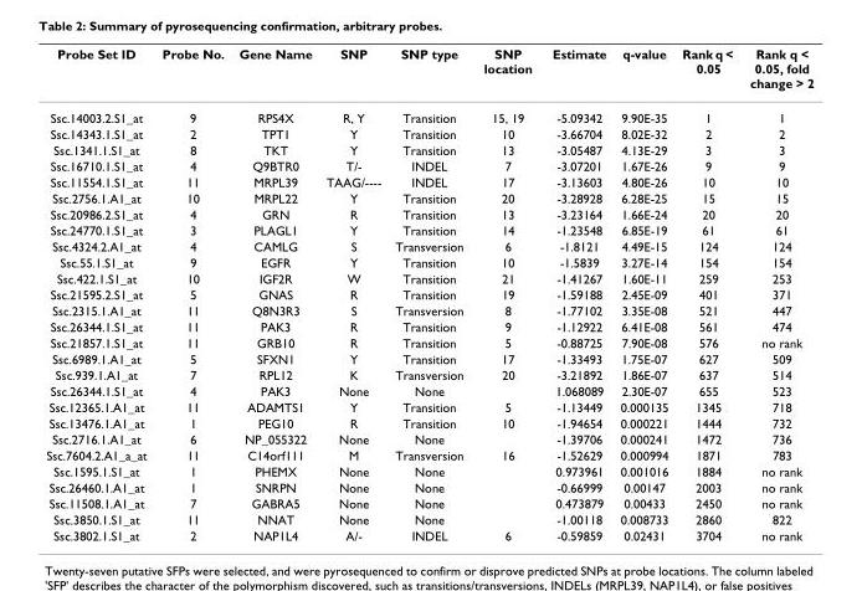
<table><thead><tr><td>Probe Set ID</td><td>Probe No.</td><td>Gene Name</td><td>SNP</td><td>SNP type</td><td>SNP location</td><td>Estimate</td><td>q-value</td><td>Rank q &lt; 0.05</td><td>Rank q &lt; 0.05, fold change &gt; 2</td></tr></thead><tbody><tr><td>Ssc.14003.2.S1_at</td><td>9</td><td>RPS4X</td><td>R, Y</td><td>Transition</td><td>15, 19</td><td>-5.09342</td><td>9.90E-35</td><td>1</td><td>1</td></tr><tr><td>Ssc.14343.1.S1_at</td><td>2</td><td>TPT1</td><td>Y</td><td>Transition</td><td>10</td><td>-3.66704</td><td>8.02E-32</td><td>2</td><td>2</td></tr><tr><td>Ssc.1341.1.S1_at</td><td>8</td><td>TKT</td><td>Y</td><td>Transition</td><td>13</td><td>-3.05487</td><td>4.13E-29</td><td>3</td><td>3</td></tr><tr><td>Ssc.16710.1.S1_at</td><td>4</td><td>Q9BTR0</td><td>T/-</td><td>INDEL</td><td>7</td><td>-3.07201</td><td>1.67E-26</td><td>9</td><td>9</td></tr><tr><td>Ssc.11554.1.S1_at</td><td>11</td><td>MRPL39</td><td>TAAG/----</td><td>INDEL</td><td>17</td><td>-3.13603</td><td>4.80E-26</td><td>10</td><td>10</td></tr><tr><td>Ssc.2756.1.A1_at</td><td>10</td><td>MRPL22</td><td>Y</td><td>Transition</td><td>20</td><td>-3.28928</td><td>6.28E-25</td><td>15</td><td>15</td></tr><tr><td>Ssc.20986.2.S1_at</td><td>4</td><td>GRN</td><td>R</td><td>Transition</td><td>13</td><td>-3.23164</td><td>1.66E-24</td><td>20</td><td>20</td></tr><tr><td>Ssc.24770.1.S1_at</td><td>3</td><td>PLAGL1</td><td>Y</td><td>Transition</td><td>14</td><td>-1.23548</td><td>6.85E-19</td><td>61</td><td>61</td></tr><tr><td>Ssc.4324.2.A1_at</td><td>4</td><td>CAMLG</td><td>S</td><td>Transversion</td><td>6</td><td>-1.8121</td><td>4.49E-15</td><td>124</td><td>124</td></tr><tr><td>Ssc.55.1.S1_at</td><td>9</td><td>EGFR</td><td>Y</td><td>Transition</td><td>10</td><td>-1.5839</td><td>3.27E-14</td><td>154</td><td>154</td></tr><tr><td>Ssc.422.1.S1_at</td><td>10</td><td>IGF2R</td><td>W</td><td>Transition</td><td>21</td><td>-1.41267</td><td>1.60E-11</td><td>259</td><td>253</td></tr><tr><td>Ssc.21595.2.S1_at</td><td>5</td><td>GNAS</td><td>R</td><td>Transition</td><td>19</td><td>-1.59188</td><td>2.45E-09</td><td>401</td><td>371</td></tr><tr><td>Ssc.2315.1.A1_at</td><td>11</td><td>Q8N3R3</td><td>S</td><td>Transversion</td><td>8</td><td>-1.77102</td><td>3.35E-08</td><td>521</td><td>447</td></tr><tr><td>Ssc.26344.1.S1_at</td><td>11</td><td>PAK3</td><td>R</td><td>Transition</td><td>9</td><td>-1.12922</td><td>6.41E-08</td><td>561</td><td>474</td></tr><tr><td>Ssc.21857.1.S1_at</td><td>11</td><td>GRB10</td><td>R</td><td>Transition</td><td>5</td><td>-0.88725</td><td>7.90E-08</td><td>576</td><td>no rank</td></tr><tr><td>Ssc.6989.1.A1_at</td><td>5</td><td>SFXN1</td><td>Y</td><td>Transition</td><td>17</td><td>-1.33493</td><td>1.75E-07</td><td>627</td><td>509</td></tr><tr><td>Ssc.939.1.A1_at</td><td>7</td><td>RPL12</td><td>K</td><td>Transversion</td><td>20</td><td>-3.21892</td><td>1.86E-07</td><td>637</td><td>514</td></tr><tr><td>Ssc.26344.1.S1_at</td><td>4</td><td>PAK3</td><td>None</td><td>None</td><td></td><td>1.068089</td><td>2.30E-07</td><td>655</td><td>523</td></tr><tr><td>Ssc.12365.1.A1_at</td><td>11</td><td>ADAMTS1</td><td>Y</td><td>Transition</td><td>5</td><td>-1.13449</td><td>0.000135</td><td>1345</td><td>718</td></tr><tr><td>Ssc.13476.1.A1_at</td><td>1</td><td>PEG10</td><td>R</td><td>Transition</td><td>10</td><td>-1.94654</td><td>0.000221</td><td>1444</td><td>732</td></tr><tr><td>Ssc.2716.1.A1_at</td><td>6</td><td>NP_055322</td><td>None</td><td>None</td><td></td><td>-1.39706</td><td>0.000241</td><td>1472</td><td>736</td></tr><tr><td>Ssc.7604.2.A1_a_at</td><td>11</td><td>C14orf111</td><td>M</td><td>Transversion</td><td>16</td><td>-1.52629</td><td>0.000994</td><td>1871</td><td>783</td></tr><tr><td>Ssc.1595.1.S1_at</td><td>1</td><td>PHEMX</td><td>None</td><td>None</td><td></td><td>0.973961</td><td>0.001016</td><td>1884</td><td>no rank</td></tr><tr><td>Ssc.26460.1.A1_at</td><td>1</td><td>SNRPN</td><td>None</td><td>None</td><td></td><td>-0.66999</td><td>0.00147</td><td>2003</td><td>no rank</td></tr><tr><td>Ssc.11508.1.A1_at</td><td>7</td><td>GABRA5</td><td>None</td><td>None</td><td></td><td>0.473879</td><td>0.00433</td><td>2450</td><td>no rank</td></tr><tr><td>Ssc.3850.1.S1_at</td><td>11</td><td>NNAT</td><td>None</td><td>None</td><td></td><td>-1.00118</td><td>0.008733</td><td>2860</td><td>822</td></tr><tr><td>Ssc.3802.1.S1_at</td><td>2</td><td>NAP1L4</td><td>A/-</td><td>INDEL</td><td>6</td><td>-0.59859</td><td>0.02431</td><td>3704</td><td>no rank</td></tr></tbody></table>